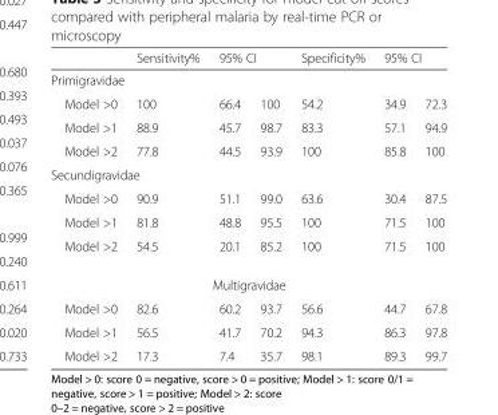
<table><thead><tr><td></td><td>Sensitivity%</td><td colspan="2">95% CI</td><td>Specificity%</td><td colspan="2">95% CI</td></tr><tr><td colspan="7">Primigravidae</td></tr><tr><td>Model &gt;0</td><td>100</td><td>66.4</td><td>100</td><td>54.2</td><td>34.9</td><td>72.3</td></tr></thead><tbody><tr><td>Model &gt;1</td><td>88.9</td><td>45.7</td><td>98.7</td><td>83.3</td><td>57.1</td><td>94.9</td></tr><tr><td>Model &gt;2</td><td>77.8</td><td>44.5</td><td>93.9</td><td>100</td><td>85.8</td><td>100</td></tr><tr><td colspan="7">Secundigravidae</td></tr><tr><td>Model &gt;0</td><td>90.9</td><td>51.1</td><td>99.0</td><td>63.6</td><td>30.4</td><td>87.5</td></tr><tr><td>Model &gt;1</td><td>81.8</td><td>48.8</td><td>95.5</td><td>100</td><td>71.5</td><td>100</td></tr><tr><td>Model &gt;2</td><td>54.5</td><td>20.1</td><td>85.2</td><td>100</td><td>71.5</td><td>100</td></tr><tr><td colspan="7">Multigravidae</td></tr><tr><td>Model &gt;0</td><td>82.6</td><td>60.2</td><td>93.7</td><td>56.6</td><td>44.7</td><td>67.8</td></tr><tr><td>Model &gt;1</td><td>56.5</td><td>41.7</td><td>70.2</td><td>94.3</td><td>86.3</td><td>97.8</td></tr><tr><td>Model &gt;2</td><td>17.3</td><td>7.4</td><td>35.7</td><td>98.1</td><td>89.3</td><td>99.7</td></tr></tbody></table>